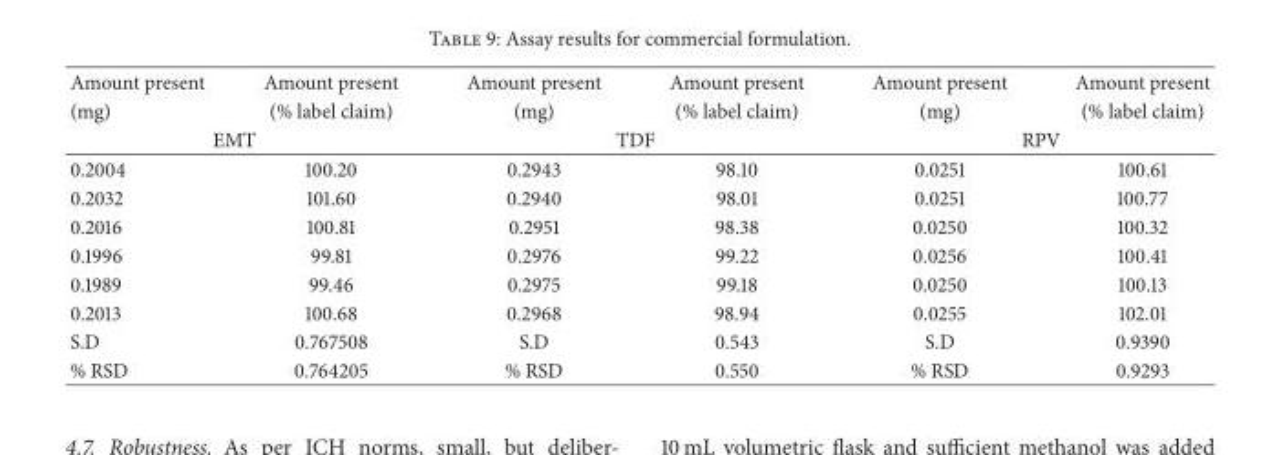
<table><thead><tr><td>Amount present (mg)</td><td>Amount present (% label claim)</td><td>Amount present (mg)</td><td>Amount present (% label claim)</td><td>Amount present (mg)</td><td>Amount present (% label claim)</td></tr><tr><td colspan="2">EMT</td><td colspan="2">TDF</td><td colspan="2">RPV</td></tr></thead><tbody><tr><td>0.2004</td><td>100.20</td><td>0.2943</td><td>98.10</td><td>0.0251</td><td>100.61</td></tr><tr><td>0.2032</td><td>101.60</td><td>0.2940</td><td>98.01</td><td>0.0251</td><td>100.77</td></tr><tr><td>0.2016</td><td>100.81</td><td>0.2951</td><td>98.38</td><td>0.0250</td><td>100.32</td></tr><tr><td>0.1996</td><td>99.81</td><td>0.2976</td><td>99.22</td><td>0.0256</td><td>100.41</td></tr><tr><td>0.1989</td><td>99.46</td><td>0.2975</td><td>99.18</td><td>0.0250</td><td>100.13</td></tr><tr><td>0.2013</td><td>100.68</td><td>0.2968</td><td>98.94</td><td>0.0255</td><td>102.01</td></tr><tr><td>S.D</td><td>0.767508</td><td>S.D</td><td>0.543</td><td>S.D</td><td>0.9390</td></tr><tr><td>% RSD</td><td>0.764205</td><td>% RSD</td><td>0.550</td><td>% RSD</td><td>0.9293</td></tr></tbody></table>